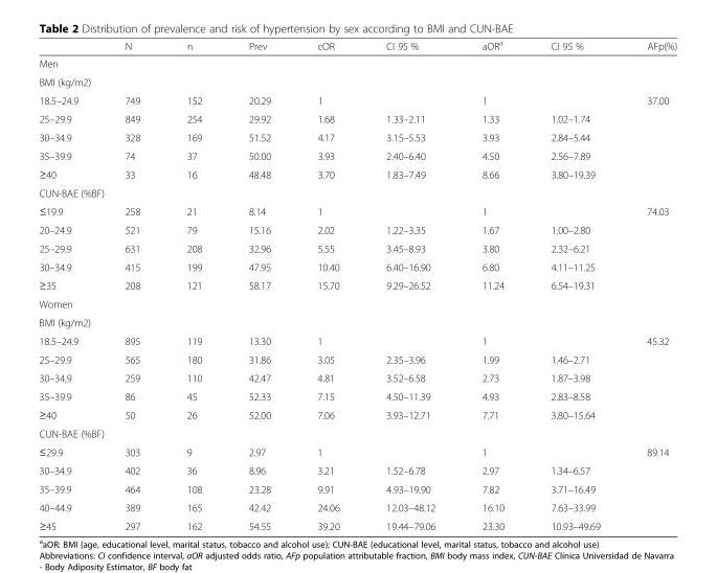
<table><thead><tr><td></td><td>N</td><td>n</td><td>Prev</td><td>cOR</td><td>CI 95 %</td><td>aOR<sup>a</sup></td><td>CI 95 %</td><td>AFp(%)</td></tr></thead><tbody><tr><td colspan="9">Men</td></tr><tr><td colspan="9">BMI (kg/m2)</td></tr><tr><td>18.5–24.9</td><td>749</td><td>152</td><td>20.29</td><td>1</td><td></td><td>1</td><td></td><td rowspan="5">37.00</td></tr><tr><td>25–29.9</td><td>849</td><td>254</td><td>29.92</td><td>1.68</td><td>1.33–2.11</td><td>1.33</td><td>1.02–1.74</td></tr><tr><td>30–34.9</td><td>328</td><td>169</td><td>51.52</td><td>4.17</td><td>3.15–5.53</td><td>3.93</td><td>2.84–5.44</td></tr><tr><td>35–39.9</td><td>74</td><td>37</td><td>50.00</td><td>3.93</td><td>2.40–6.40</td><td>4.50</td><td>2.56–7.89</td></tr><tr><td>≥40</td><td>33</td><td>16</td><td>48.48</td><td>3.70</td><td>1.83–7.49</td><td>8.66</td><td>3.80–19.39</td></tr><tr><td colspan="9">CUN-BAE (%BF)</td></tr><tr><td>≤19.9</td><td>258</td><td>21</td><td>8.14</td><td>1</td><td></td><td>1</td><td></td><td rowspan="5">74.03</td></tr><tr><td>20–24.9</td><td>521</td><td>79</td><td>15.16</td><td>2.02</td><td>1.22–3.35</td><td>1.67</td><td>1.00–2.80</td></tr><tr><td>25–29.9</td><td>631</td><td>208</td><td>32.96</td><td>5.55</td><td>3.45–8.93</td><td>3.80</td><td>2.32–6.21</td></tr><tr><td>30–34.9</td><td>415</td><td>199</td><td>47.95</td><td>10.40</td><td>6.40–16.90</td><td>6.80</td><td>4.11–11.25</td></tr><tr><td>≥35</td><td>208</td><td>121</td><td>58.17</td><td>15.70</td><td>9.29–26.52</td><td>11.24</td><td>6.54–19.31</td></tr><tr><td colspan="9">Women</td></tr><tr><td colspan="9">BMI (kg/m2)</td></tr><tr><td>18.5–24.9</td><td>895</td><td>119</td><td>13.30</td><td>1</td><td></td><td>1</td><td></td><td rowspan="5">45.32</td></tr><tr><td>25–29.9</td><td>565</td><td>180</td><td>31.86</td><td>3.05</td><td>2.35–3.96</td><td>1.99</td><td>1.46–2.71</td></tr><tr><td>30–34,9</td><td>259</td><td>110</td><td>42.47</td><td>4.81</td><td>3.52–6.58</td><td>2.73</td><td>1.87–3.98</td></tr><tr><td>35–39.9</td><td>86</td><td>45</td><td>52.33</td><td>7.15</td><td>4.50–11.39</td><td>4.93</td><td>2.83–8.58</td></tr><tr><td>≥40</td><td>50</td><td>26</td><td>52.00</td><td>7.06</td><td>3.93–12.71</td><td>7.71</td><td>3.80–15.64</td></tr><tr><td colspan="9">CUN-BAE (%BF)</td></tr><tr><td>≤29.9</td><td>303</td><td>9</td><td>2.97</td><td>1</td><td></td><td>1</td><td></td><td rowspan="5">89.14</td></tr><tr><td>30–34.9</td><td>402</td><td>36</td><td>8.96</td><td>3.21</td><td>1.52–6.78</td><td>2.97</td><td>1.34–6.57</td></tr><tr><td>35–39.9</td><td>464</td><td>108</td><td>23.28</td><td>9.91</td><td>4.93–19.90</td><td>7.82</td><td>3.71–16.49</td></tr><tr><td>40–44.9</td><td>389</td><td>165</td><td>42.42</td><td>24.06</td><td>12.03–48.12</td><td>16.10</td><td>7.63–33.99</td></tr><tr><td>≥45</td><td>297</td><td>162</td><td>54.55</td><td>39.20</td><td>19.44–79.06</td><td>23.30</td><td>10.93–49.69</td></tr></tbody></table>